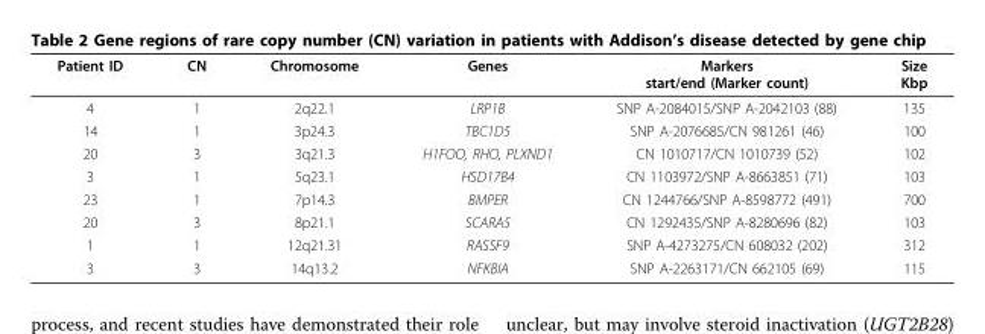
<table><thead><tr><td>Patient ID</td><td>CN</td><td>Chromosome</td><td>Genes</td><td>Markers start/end (Marker count)</td><td>Size Kbp</td></tr></thead><tbody><tr><td>4</td><td>1</td><td>2q22.1</td><td>LRP1B</td><td>SNP A-2084015/SNP A-2042103 (88)</td><td>135</td></tr><tr><td>14</td><td>1</td><td>3p24.3</td><td>TBC1D5</td><td>SNP A-2076685/CN 981261 (46)</td><td>100</td></tr><tr><td>20</td><td>3</td><td>3q21.3</td><td>H1FOO, RHO, PLXND1</td><td>CN 1010717/CN 1010739 (52)</td><td>102</td></tr><tr><td>3</td><td>1</td><td>5q23.1</td><td>HSD17B4</td><td>CN 1103972/SNP A-8663851 (71)</td><td>103</td></tr><tr><td>23</td><td>1</td><td>7p14.3</td><td>BMPER</td><td>CN 1244766/SNP A-8598772 (491)</td><td>700</td></tr><tr><td>20</td><td>3</td><td>8p21.1</td><td>SCARA5</td><td>CN 1292435/SNP A-8280696 (82)</td><td>103</td></tr><tr><td>1</td><td>1</td><td>12q21.31</td><td>RASSF9</td><td>SNP A-4273275/CN 608032 (202)</td><td>312</td></tr><tr><td>3</td><td>3</td><td>14q13.2</td><td>NFKBIA</td><td>SNP A-2263171/CN 662105 (69)</td><td>115</td></tr></tbody></table>